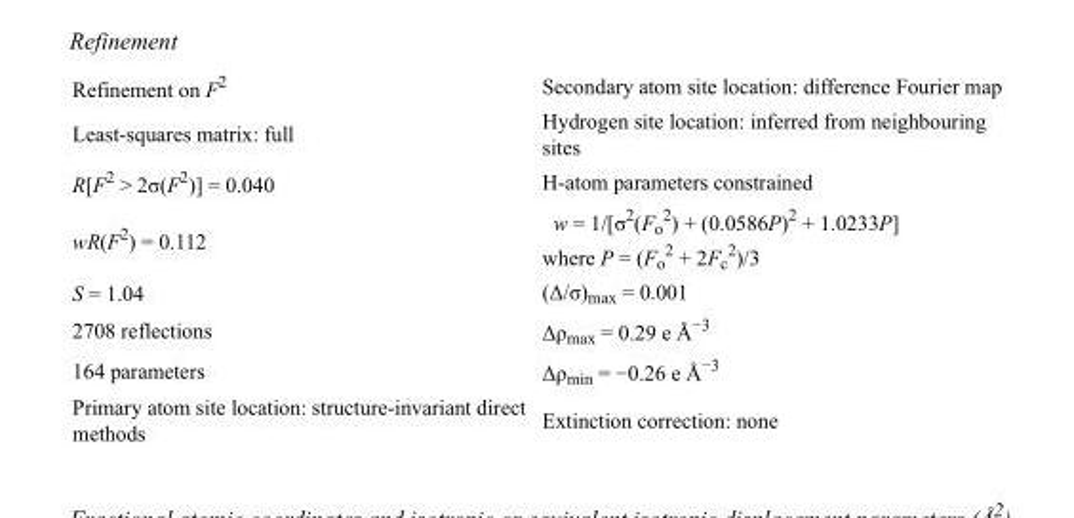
<table><tbody><tr><td>Refinement on F<sup>2</sup></td><td>Secondary atom site location: difference Fourier map</td></tr><tr><td>Least-squares matrix: full</td><td>Hydrogen site location: inferred from neighbouring sites</td></tr><tr><td>R[F<sup>2</sup> &gt; 2σ(F<sup>2</sup>)] = 0.040</td><td>H-atom parameters constrained</td></tr><tr><td>wR(F<sup>2</sup>) = 0.112</td><td>w = 1/[σ<sup>2</sup>(F<sub>o</sub> <sup>2</sup>) + (0.0586P)<sup>2</sup> + 1.0233P] where P = (F<sub>o</sub> <sup>2</sup> + 2F<sub>c</sub> <sup>2</sup>)/3</td></tr><tr><td>S = 1.04</td><td>(Δ/σ)<sub>max</sub> = 0.001</td></tr><tr><td>2708 reflections</td><td>Δρ<sub>max</sub> = 0.29 e Å<sup>−3</sup></td></tr><tr><td>164 parameters</td><td>Δρ<sub>min</sub> = −0.26 e Å<sup>−3</sup></td></tr><tr><td>Primary atom site location: structure-invariant direct methods</td><td>Extinction correction: none</td></tr></tbody></table>